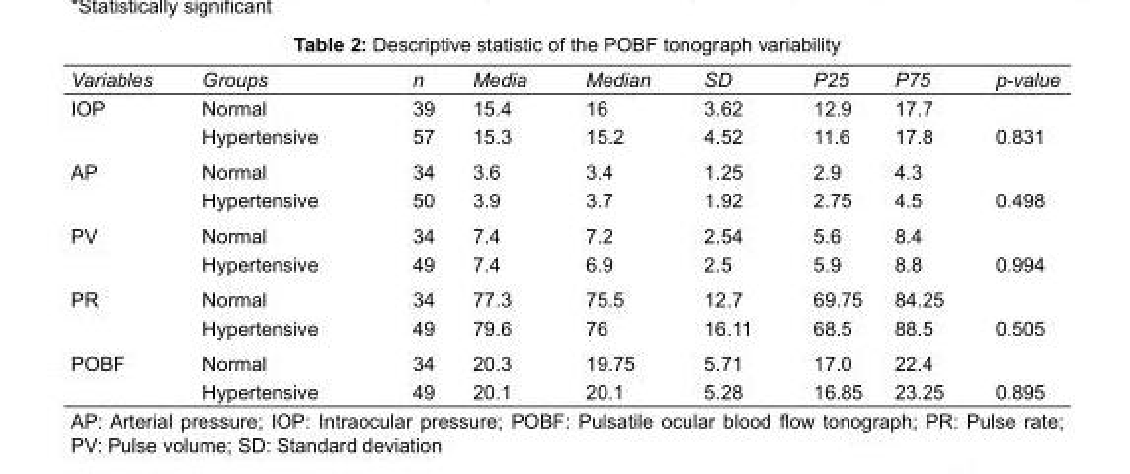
<table><tbody><tr><td>Variables</td><td>Groups</td><td>n</td><td>Media</td><td>Median</td><td>SD</td><td>P25</td><td>P75</td><td>p-value</td></tr><tr><td rowspan="2">IOP</td><td>Normal</td><td>39</td><td>15.4</td><td>16</td><td>3.62</td><td>12.9</td><td>17.7</td><td></td></tr><tr><td>Hypertensive</td><td>57</td><td>15.3</td><td>15.2</td><td>4.52</td><td>11.6</td><td>17.8</td><td>0.831</td></tr><tr><td rowspan="2">AP</td><td>Normal</td><td>34</td><td>3.6</td><td>3.4</td><td>1.25</td><td>2.9</td><td>4.3</td><td></td></tr><tr><td>Hypertensive</td><td>50</td><td>3.9</td><td>3.7</td><td>1.92</td><td>2.75</td><td>4.5</td><td>0.498</td></tr><tr><td rowspan="2">PV</td><td>Normal</td><td>34</td><td>7.4</td><td>7.2</td><td>2.54</td><td>5.6</td><td>8.4</td><td></td></tr><tr><td>Hypertensive</td><td>49</td><td>7.4</td><td>6.9</td><td>2.5</td><td>5.9</td><td>8.8</td><td>0.994</td></tr><tr><td rowspan="2">PR</td><td>Normal</td><td>34</td><td>77.3</td><td>75.5</td><td>12.7</td><td>69.75</td><td>84.25</td><td></td></tr><tr><td>Hypertensive</td><td>49</td><td>79.6</td><td>76</td><td>16.11</td><td>68.5</td><td>88.5</td><td>0.505</td></tr><tr><td rowspan="2">POBF</td><td>Normal</td><td>34</td><td>20.3</td><td>19.75</td><td>5.71</td><td>17.0</td><td>22.4</td><td></td></tr><tr><td>Hypertensive</td><td>49</td><td>20.1</td><td>20.1</td><td>5.28</td><td>16.85</td><td>23.25</td><td>0.895</td></tr></tbody></table>